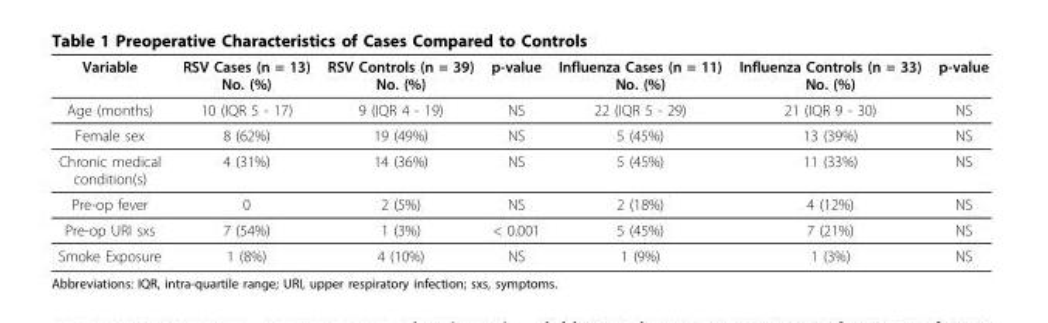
<table><thead><tr><td>Variable</td><td>RSV Cases (n = 13) No. (%)</td><td>RSV Controls (n = 39) No. (%)</td><td>p-value</td><td>Influenza Cases (n = 11) No. (%)</td><td>Influenza Controls (n = 33) No. (%)</td><td>p-value</td></tr></thead><tbody><tr><td>Age (months)</td><td>10 (IQR 5 - 17)</td><td>9 (IQR 4 - 19)</td><td>NS</td><td>22 (IQR 5 - 29)</td><td>21 (IQR 9 - 30)</td><td>NS</td></tr><tr><td>Female sex</td><td>8 (62%)</td><td>19 (49%)</td><td>NS</td><td>5 (45%)</td><td>13 (39%)</td><td>NS</td></tr><tr><td>Chronic medical condition(s)</td><td>4 (31%)</td><td>14 (36%)</td><td>NS</td><td>5 (45%)</td><td>11 (33%)</td><td>NS</td></tr><tr><td>Pre-op fever</td><td>0</td><td>2 (5%)</td><td>NS</td><td>2 (18%)</td><td>4 (12%)</td><td>NS</td></tr><tr><td>Pre-op URI sxs</td><td>7 (54%)</td><td>1 (3%)</td><td>&lt; 0.001</td><td>5 (45%)</td><td>7 (21%)</td><td>NS</td></tr><tr><td>Smoke Exposure</td><td>1 (8%)</td><td>4 (10%)</td><td>NS</td><td>1 (9%)</td><td>1 (3%)</td><td>NS</td></tr></tbody></table>